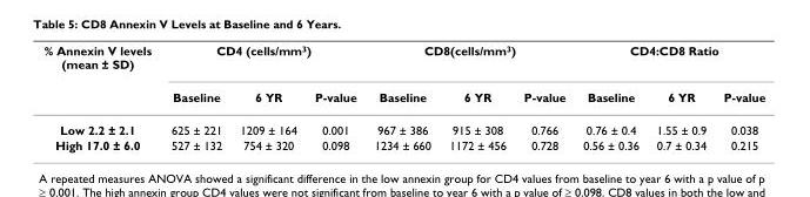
<table><thead><tr><td rowspan="2">% Annexin V levels (mean ± SD)</td><td colspan="3">CD4 (cells/mm<sup>3</sup>)</td><td colspan="3">CD8(cells/mm<sup>3</sup>)</td><td colspan="3">CD4:CD8 Ratio</td></tr><tr><td>Baseline</td><td>6 YR</td><td>P-value</td><td>Baseline</td><td>6 YR</td><td>P-value</td><td>Baseline</td><td>6 YR</td><td>P-value</td></tr></thead><tbody><tr><td>Low 2.2 ± 2.1</td><td>625 ± 221</td><td>1209 ± 164</td><td>0.001</td><td>967 ± 386</td><td>915 ± 308</td><td>0.766</td><td>0.76 ± 0.4</td><td>1.55 ± 0.9</td><td>0.038</td></tr><tr><td>High 17.0 ± 6.0</td><td>527 ± 132</td><td>754 ± 320</td><td>0.098</td><td>1234 ± 660</td><td>1172 ± 456</td><td>0.728</td><td>0.56 ± 0.36</td><td>0.7 ± 0.34</td><td>0.215</td></tr></tbody></table>